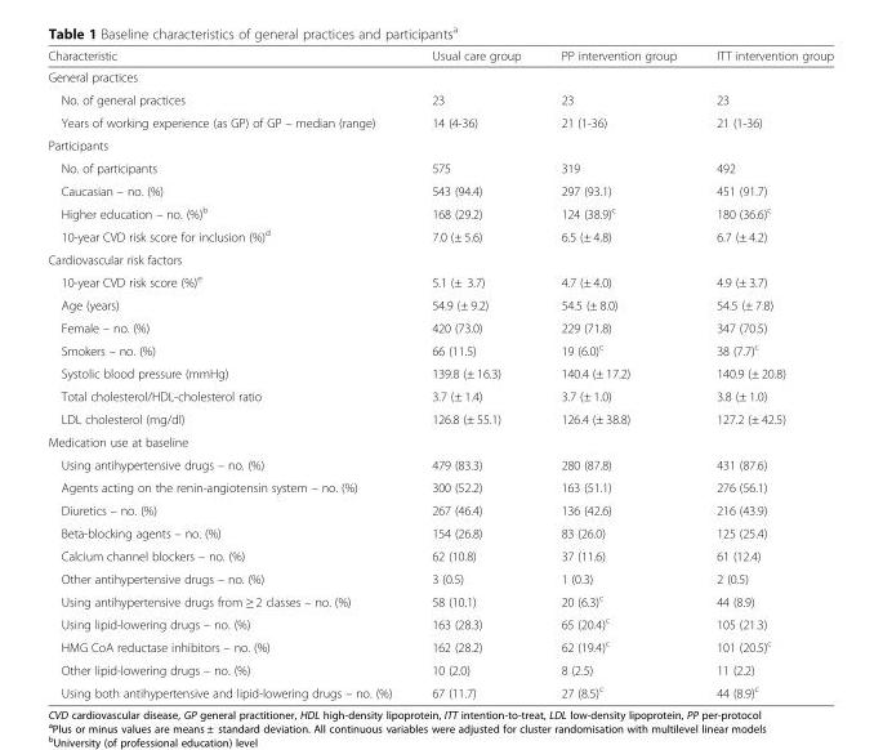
<table><thead><tr><td>Characteristic</td><td>Usual care group</td><td>PP intervention group</td><td>ITT intervention group</td></tr></thead><tbody><tr><td colspan="4">General practices</td></tr><tr><td>No. of general practices</td><td>23</td><td>23</td><td>23</td></tr><tr><td>Years of working experience (as GP) of GP – median (range)</td><td>14 (4-36)</td><td>21 (1-36)</td><td>21 (1-36)</td></tr><tr><td colspan="4">Participants</td></tr><tr><td>No. of participants</td><td>575</td><td>319</td><td>492</td></tr><tr><td>Caucasian – no. (%)</td><td>543 (94.4)</td><td>297 (93.1)</td><td>451 (91.7)</td></tr><tr><td>Higher education – no. (%)<sup>b</sup></td><td>168 (29.2)</td><td>124 (38.9)<sup>c</sup></td><td>180 (36.6)<sup>c</sup></td></tr><tr><td>10-year CVD risk score for inclusion (%)<sup>d</sup></td><td>7.0 (± 5.6)</td><td>6.5 (± 4.8)</td><td>6.7 (± 4.2)</td></tr><tr><td colspan="4">Cardiovascular risk factors</td></tr><tr><td>10-year CVD risk score (%)<sup>e</sup></td><td>5.1 (± 3.7)</td><td>4.7 (± 4.0)</td><td>4.9 (± 3.7)</td></tr><tr><td>Age (years)</td><td>54.9 (± 9.2)</td><td>54.5 (± 8.0)</td><td>54.5 (± 7.8)</td></tr><tr><td>Female – no. (%)</td><td>420 (73.0)</td><td>229 (71.8)</td><td>347 (70.5)</td></tr><tr><td>Smokers – no. (%)</td><td>66 (11.5)</td><td>19 (6.0)<sup>c</sup></td><td>38 (7.7)<sup>c</sup></td></tr><tr><td>Systolic blood pressure (mmHg)</td><td>139.8 (± 16.3)</td><td>140.4 (± 17.2)</td><td>140.9 (± 20.8)</td></tr><tr><td>Total cholesterol/HDL-cholesterol ratio</td><td>3.7 (± 1.4)</td><td>3.7 (± 1.0)</td><td>3.8 (± 1.0)</td></tr><tr><td>LDL cholesterol (mg/dl)</td><td>126.8 (± 55.1)</td><td>126.4 (± 38.8)</td><td>127.2 (± 42.5)</td></tr><tr><td colspan="4">Medication use at baseline</td></tr><tr><td>Using antihypertensive drugs – no. (%)</td><td>479 (83.3)</td><td>280 (87.8)</td><td>431 (87.6)</td></tr><tr><td>Agents acting on the renin-angiotensin system – no. (%)</td><td>300 (52.2)</td><td>163 (51.1)</td><td>276 (56.1)</td></tr><tr><td>Diuretics – no. (%)</td><td>267 (46.4)</td><td>136 (42.6)</td><td>216 (43.9)</td></tr><tr><td>Beta-blocking agents – no. (%)</td><td>154 (26.8)</td><td>83 (26.0)</td><td>125 (25.4)</td></tr><tr><td>Calcium channel blockers – no. (%)</td><td>62 (10.8)</td><td>37 (11.6)</td><td>61 (12.4)</td></tr><tr><td>Other antihypertensive drugs – no. (%)</td><td>3 (0.5)</td><td>1 (0.3)</td><td>2 (0.5)</td></tr><tr><td>Using antihypertensive drugs from ≥ 2 classes – no. (%)</td><td>58 (10.1)</td><td>20 (6.3)<sup>c</sup></td><td>44 (8.9)</td></tr><tr><td>Using lipid-lowering drugs – no. (%)</td><td>163 (28.3)</td><td>65 (20.4)<sup>c</sup></td><td>105 (21.3)</td></tr><tr><td>HMG CoA reductase inhibitors – no. (%)</td><td>162 (28.2)</td><td>62 (19.4)<sup>c</sup></td><td>101 (20.5)<sup>c</sup></td></tr><tr><td>Other lipid-lowering drugs – no. (%)</td><td>10 (2.0)</td><td>8 (2.5)</td><td>11 (2.2)</td></tr><tr><td>Using both antihypertensive and lipid-lowering drugs – no. (%)</td><td>67 (11.7)</td><td>27 (8.5)<sup>c</sup></td><td>44 (8.9)<sup>c</sup></td></tr></tbody></table>